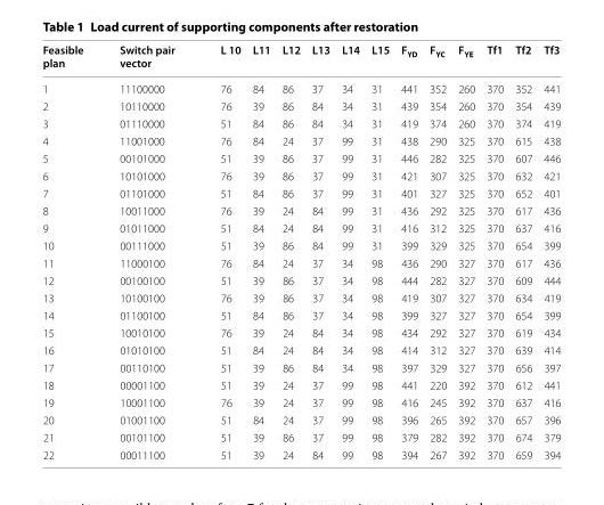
<table><thead><tr><td>Feasible plan</td><td>Switch pair vector</td><td>L 10</td><td>L11</td><td>L12</td><td>L13</td><td>L14</td><td>L15</td><td>F<sub>YD</sub></td><td>F<sub>YC</sub></td><td>F<sub>YE</sub></td><td>Tf1</td><td>Tf2</td><td>Tf3</td></tr></thead><tbody><tr><td>1</td><td>11100000</td><td>76</td><td>84</td><td>86</td><td>37</td><td>34</td><td>31</td><td>441</td><td>352</td><td>260</td><td>370</td><td>352</td><td>441</td></tr><tr><td>2</td><td>10110000</td><td>76</td><td>39</td><td>86</td><td>84</td><td>34</td><td>31</td><td>439</td><td>354</td><td>260</td><td>370</td><td>354</td><td>439</td></tr><tr><td>3</td><td>01110000</td><td>51</td><td>84</td><td>86</td><td>84</td><td>34</td><td>31</td><td>419</td><td>374</td><td>260</td><td>370</td><td>374</td><td>419</td></tr><tr><td>4</td><td>11001000</td><td>76</td><td>84</td><td>24</td><td>37</td><td>99</td><td>31</td><td>438</td><td>290</td><td>325</td><td>370</td><td>615</td><td>438</td></tr><tr><td>5</td><td>00101000</td><td>51</td><td>39</td><td>86</td><td>37</td><td>99</td><td>31</td><td>446</td><td>282</td><td>325</td><td>370</td><td>607</td><td>446</td></tr><tr><td>6</td><td>10101000</td><td>76</td><td>39</td><td>86</td><td>37</td><td>99</td><td>31</td><td>421</td><td>307</td><td>325</td><td>370</td><td>632</td><td>421</td></tr><tr><td>7</td><td>01101000</td><td>51</td><td>84</td><td>86</td><td>37</td><td>99</td><td>31</td><td>401</td><td>327</td><td>325</td><td>370</td><td>652</td><td>401</td></tr><tr><td>8</td><td>10011000</td><td>76</td><td>39</td><td>24</td><td>84</td><td>99</td><td>31</td><td>436</td><td>292</td><td>325</td><td>370</td><td>617</td><td>436</td></tr><tr><td>9</td><td>01011000</td><td>51</td><td>84</td><td>24</td><td>84</td><td>99</td><td>31</td><td>416</td><td>312</td><td>325</td><td>370</td><td>637</td><td>416</td></tr><tr><td>10</td><td>00111000</td><td>51</td><td>39</td><td>86</td><td>84</td><td>99</td><td>31</td><td>399</td><td>329</td><td>325</td><td>370</td><td>654</td><td>399</td></tr><tr><td>11</td><td>11000100</td><td>76</td><td>84</td><td>24</td><td>37</td><td>34</td><td>98</td><td>436</td><td>290</td><td>327</td><td>370</td><td>617</td><td>436</td></tr><tr><td>12</td><td>00100100</td><td>51</td><td>39</td><td>86</td><td>37</td><td>34</td><td>98</td><td>444</td><td>282</td><td>327</td><td>370</td><td>609</td><td>444</td></tr><tr><td>13</td><td>10100100</td><td>76</td><td>39</td><td>86</td><td>37</td><td>34</td><td>98</td><td>419</td><td>307</td><td>327</td><td>370</td><td>634</td><td>419</td></tr><tr><td>14</td><td>01100100</td><td>51</td><td>84</td><td>86</td><td>37</td><td>34</td><td>98</td><td>399</td><td>327</td><td>327</td><td>370</td><td>654</td><td>399</td></tr><tr><td>15</td><td>10010100</td><td>76</td><td>39</td><td>24</td><td>84</td><td>34</td><td>98</td><td>434</td><td>292</td><td>327</td><td>370</td><td>619</td><td>434</td></tr><tr><td>16</td><td>01010100</td><td>51</td><td>84</td><td>24</td><td>84</td><td>34</td><td>98</td><td>414</td><td>312</td><td>327</td><td>370</td><td>639</td><td>414</td></tr><tr><td>17</td><td>00110100</td><td>51</td><td>39</td><td>86</td><td>84</td><td>34</td><td>98</td><td>397</td><td>329</td><td>327</td><td>370</td><td>656</td><td>397</td></tr><tr><td>18</td><td>00001100</td><td>51</td><td>39</td><td>24</td><td>37</td><td>99</td><td>98</td><td>441</td><td>220</td><td>392</td><td>370</td><td>612</td><td>441</td></tr><tr><td>19</td><td>10001100</td><td>76</td><td>39</td><td>24</td><td>37</td><td>99</td><td>98</td><td>416</td><td>245</td><td>392</td><td>370</td><td>637</td><td>416</td></tr><tr><td>20</td><td>01001100</td><td>51</td><td>84</td><td>24</td><td>37</td><td>99</td><td>98</td><td>396</td><td>265</td><td>392</td><td>370</td><td>657</td><td>396</td></tr><tr><td>21</td><td>00101100</td><td>51</td><td>39</td><td>86</td><td>37</td><td>99</td><td>98</td><td>379</td><td>282</td><td>392</td><td>370</td><td>674</td><td>379</td></tr><tr><td>22</td><td>00011100</td><td>51</td><td>39</td><td>24</td><td>84</td><td>99</td><td>98</td><td>394</td><td>267</td><td>392</td><td>370</td><td>659</td><td>394</td></tr></tbody></table>